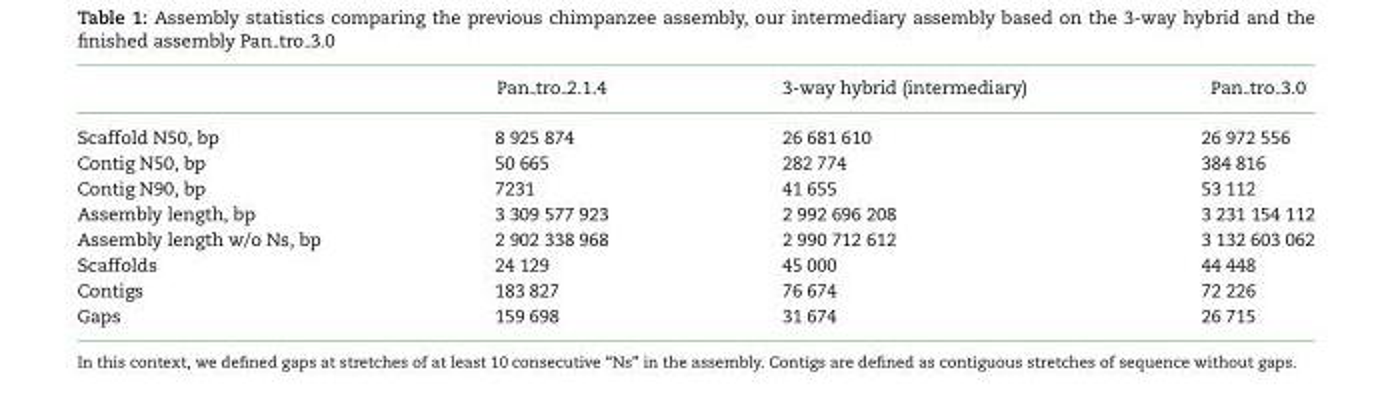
<table><thead><tr><td></td><td>Pan <sub>tro</sub> 2.1.4</td><td>3-way hybrid (intermediary)</td><td>Pan <sub>tro</sub> 3.0</td></tr></thead><tbody><tr><td>Scaffold N50, bp</td><td>8 925 874</td><td>26 681 610</td><td>26 972 556</td></tr><tr><td>Contig N50, bp</td><td>50 665</td><td>282 774</td><td>384 816</td></tr><tr><td>Contig N90, bp</td><td>7231</td><td>41 655</td><td>53 112</td></tr><tr><td>Assembly length, bp</td><td>3 309 577 923</td><td>2 992 696 208</td><td>3 231 154 112</td></tr><tr><td>Assembly length w/o Ns, bp</td><td>2 902 338 968</td><td>2 990 712 612</td><td>3 132 603 062</td></tr><tr><td>Scaffolds</td><td>24 129</td><td>45 000</td><td>44 448</td></tr><tr><td>Contigs</td><td>183 827</td><td>76 674</td><td>72 226</td></tr><tr><td>Gaps</td><td>159 698</td><td>31 674</td><td>26 715</td></tr></tbody></table>